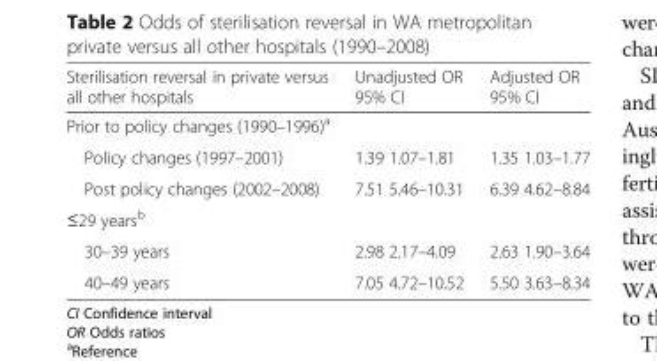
<table><thead><tr><td>Sterilisation reversal in private versus all other hospitals</td><td>Unadjusted OR 95% CI</td><td>Adjusted OR 95% CI</td></tr></thead><tbody><tr><td colspan="3">Prior to policy changes (1990–1996)<sup>a</sup></td></tr><tr><td>Policy changes (1997–2001)</td><td>1.39 1.07–1.81</td><td>1.35 1.03–1.77</td></tr><tr><td>Post policy changes (2002–2008)</td><td>7.51 5.46–10.31</td><td>6.39 4.62–8.84</td></tr><tr><td colspan="3">≤29 years<sup>b</sup></td></tr><tr><td>30–39 years</td><td>2.98 2.17–4.09</td><td>2.63 1.90–3.64</td></tr><tr><td>40–49 years</td><td>7.05 4.72–10.52</td><td>5.50 3.63–8.34</td></tr></tbody></table>